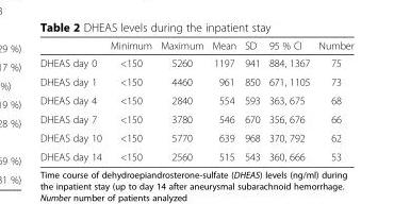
<table><thead><tr><td></td><td>Minimum</td><td>Maximum</td><td>Mean</td><td>SD</td><td>95 % CI</td><td>Number</td></tr></thead><tbody><tr><td>DHEAS day 0</td><td>&lt;150</td><td>5260</td><td>1197</td><td>941</td><td>884, 1367</td><td>75</td></tr><tr><td>DHEAS day 1</td><td>&lt;150</td><td>4460</td><td>961</td><td>850</td><td>671, 1105</td><td>73</td></tr><tr><td>DHEAS day 4</td><td>&lt;150</td><td>2840</td><td>554</td><td>593</td><td>363, 675</td><td>68</td></tr><tr><td>DHEAS day 7</td><td>&lt;150</td><td>3780</td><td>546</td><td>670</td><td>356, 676</td><td>66</td></tr><tr><td>DHEAS day 10</td><td>&lt;150</td><td>5770</td><td>639</td><td>968</td><td>370, 792</td><td>62</td></tr><tr><td>DHEAS day 14</td><td>&lt;150</td><td>2560</td><td>515</td><td>543</td><td>360, 666</td><td>53</td></tr></tbody></table>